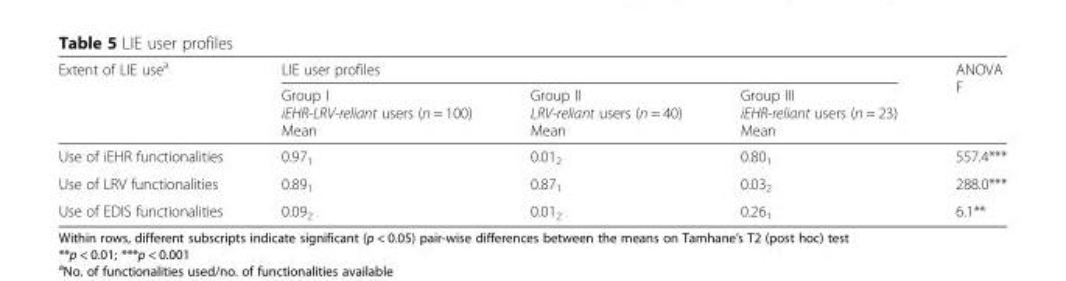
<table><thead><tr><td rowspan="2">Extent of LIE use<sup>a</sup></td><td colspan="3">LIE user profiles</td><td rowspan="2">ANOVA F</td></tr><tr><td>Group I iEHR-LRV-reliant users (n = 100) Mean</td><td>Group II LRV-reliant users (n = 40) Mean</td><td>Group III iEHR-reliant users (n = 23) Mean</td></tr></thead><tbody><tr><td>Use of iEHR functionalities</td><td>0.97<sub>1</sub></td><td>0.01<sub>2</sub></td><td>0.80<sub>1</sub></td><td>557.4***</td></tr><tr><td>Use of LRV functionalities</td><td>0.89<sub>1</sub></td><td>0.87<sub>1</sub></td><td>0.03<sub>2</sub></td><td>288.0***</td></tr><tr><td>Use of EDIS functionalities</td><td>0.09<sub>2</sub></td><td>0.01<sub>2</sub></td><td>0.26<sub>1</sub></td><td>6.1**</td></tr></tbody></table>